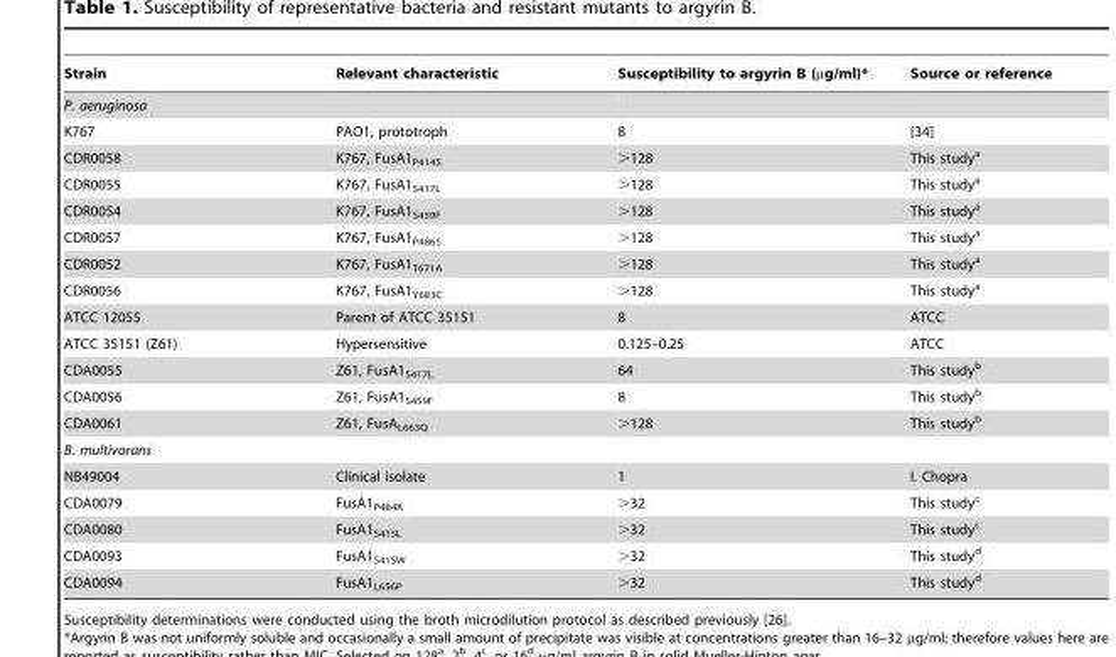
<table><thead><tr><td>Strain</td><td>Relevant characteristic</td><td>Susceptibility to argyrin B (µg/ml)*</td><td>Source or reference</td></tr></thead><tbody><tr><td colspan="4">P. aeruginosa</td></tr><tr><td>K767</td><td>PAO1, prototroph</td><td>8</td><td>[34]</td></tr><tr><td>CDR0058</td><td>K767, FusA1<sub>P414S</sub></td><td>&gt;128</td><td>This study<sup>a</sup></td></tr><tr><td>CDR0055</td><td>K767, FusA1<sub>S417L</sub></td><td>&gt;128</td><td>This study<sup>a</sup></td></tr><tr><td>CDR0054</td><td>K767, FusA1<sub>S459F</sub></td><td>&gt;128</td><td>This study<sup>a</sup></td></tr><tr><td>CDR0057</td><td>K767, FusA1<sub>P486S</sub></td><td>&gt;128</td><td>This study<sup>a</sup></td></tr><tr><td>CDR0052</td><td>K767, FusA1<sub>T671A</sub></td><td>&gt;128</td><td>This study<sup>a</sup></td></tr><tr><td>CDR0056</td><td>K767, FusA1<sub>Y683C</sub></td><td>&gt;128</td><td>This study<sup>a</sup></td></tr><tr><td>ATCC 12055</td><td>Parent of ATCC 35151</td><td>8</td><td>ATCC</td></tr><tr><td>ATCC 35151 (Z61)</td><td>Hypersensitive</td><td>0.125–0.25</td><td>ATCC</td></tr><tr><td>CDA0055</td><td>Z61, FusA1<sub>S417L</sub></td><td>64</td><td>This study<sup>b</sup></td></tr><tr><td>CDA0056</td><td>Z61, FusA1<sub>S459F</sub></td><td>8</td><td>This study<sup>b</sup></td></tr><tr><td>CDA0061</td><td>Z61, FusA<sub>L663Q</sub></td><td>&gt;128</td><td>This study<sup>b</sup></td></tr><tr><td colspan="4">B. multivorans</td></tr><tr><td>NB49004</td><td>Clinical isolate</td><td>1</td><td>I. Chopra</td></tr><tr><td>CDA0079</td><td>FusA1<sub>P484R</sub></td><td>&gt;32</td><td>This study<sup>c</sup></td></tr><tr><td>CDA0080</td><td>FusA1<sub>S415L</sub></td><td>&gt;32</td><td>This study<sup>c</sup></td></tr><tr><td>CDA0093</td><td>FusA1<sub>S415W</sub></td><td>&gt;32</td><td>This study<sup>d</sup></td></tr><tr><td>CDA0094</td><td>FusA1<sub>L656P</sub></td><td>&gt;32</td><td>This study<sup>d</sup></td></tr></tbody></table>